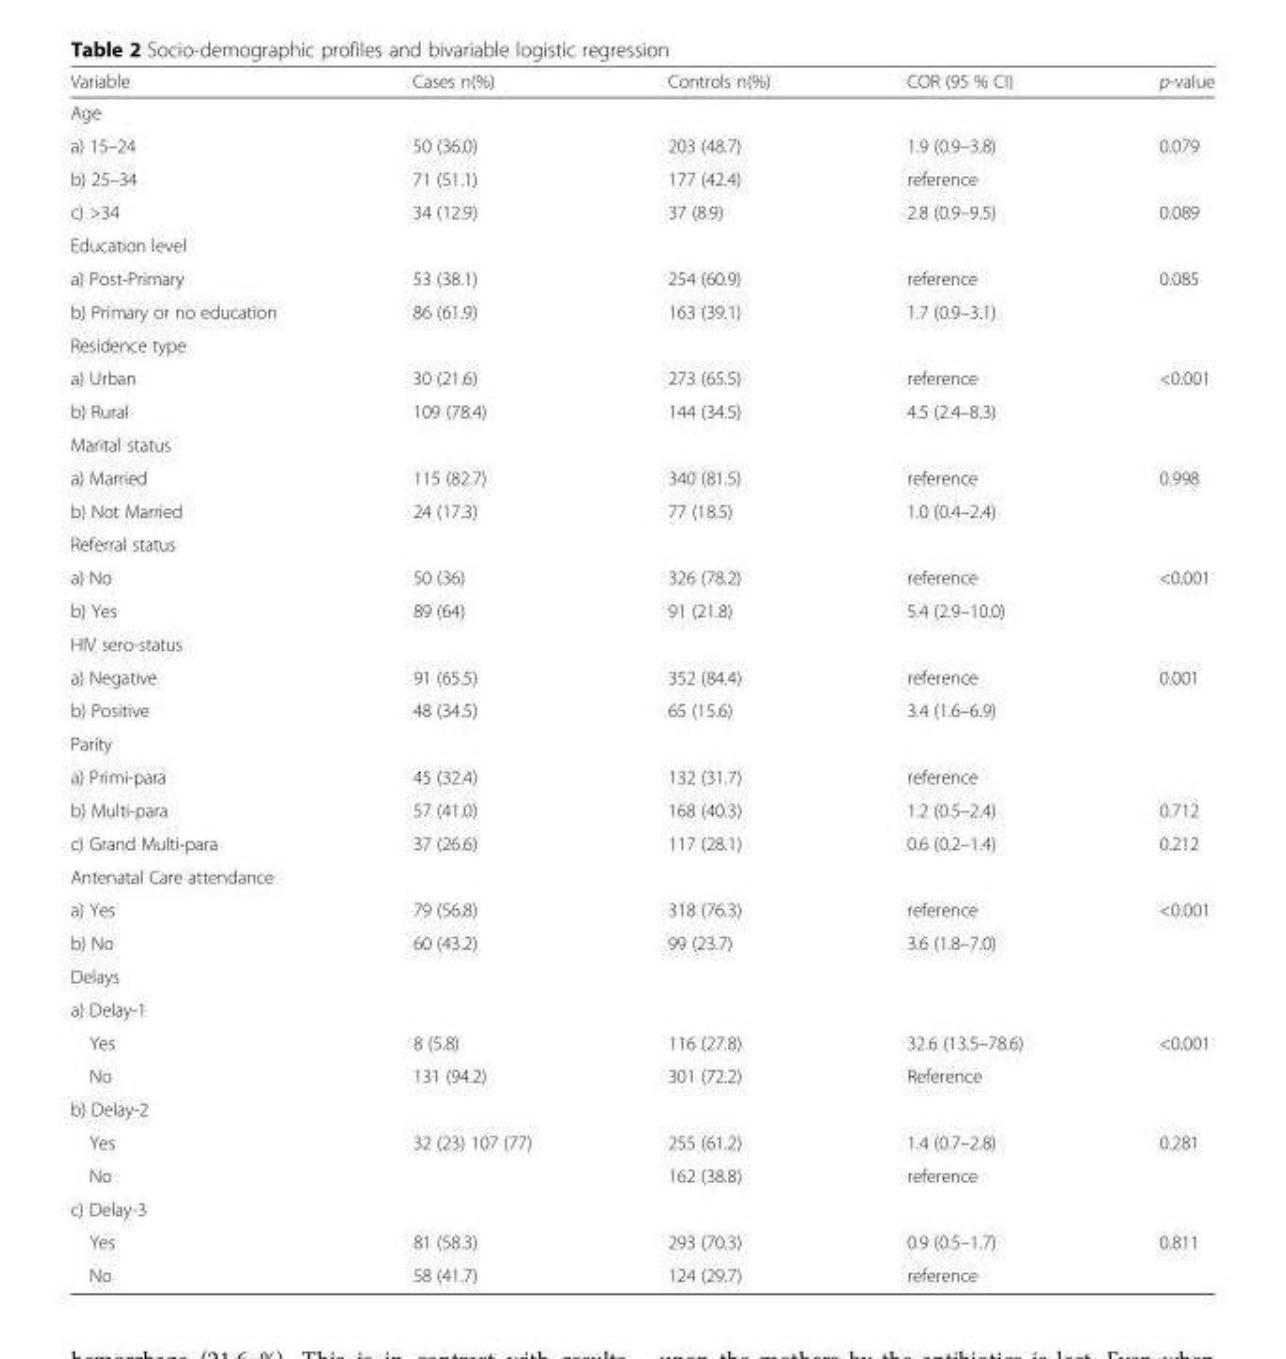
<table><thead><tr><td>Variable</td><td>Cases n(%)</td><td>Controls n(%)</td><td>COR (95 % CI)</td><td>p-value</td></tr></thead><tbody><tr><td colspan="5">Age</td></tr><tr><td>a) 15–24</td><td>50 (36.0)</td><td>203 (48.7)</td><td>1.9 (0.9–3.8)</td><td>0.079</td></tr><tr><td>b) 25–34</td><td>71 (51.1)</td><td>177 (42.4)</td><td>reference</td><td></td></tr><tr><td>c) &gt;34</td><td>34 (12.9)</td><td>37 (8.9)</td><td>2.8 (0.9–9.5)</td><td>0.089</td></tr><tr><td colspan="5">Education level</td></tr><tr><td>a) Post-Primary</td><td>53 (38.1)</td><td>254 (60.9)</td><td>reference</td><td rowspan="2">0.085</td></tr><tr><td>b) Primary or no education</td><td>86 (61.9)</td><td>163 (39.1)</td><td>1.7 (0.9–3.1)</td></tr><tr><td colspan="5">Residence type</td></tr><tr><td>a) Urban</td><td>30 (21.6)</td><td>273 (65.5)</td><td>reference</td><td rowspan="2">&lt;0.001</td></tr><tr><td>b) Rural</td><td>109 (78.4)</td><td>144 (34.5)</td><td>4.5 (2.4–8.3)</td></tr><tr><td colspan="5">Marital status</td></tr><tr><td>a) Married</td><td>115 (82.7)</td><td>340 (81.5)</td><td>reference</td><td rowspan="2">0.998</td></tr><tr><td>b) Not Married</td><td>24 (17.3)</td><td>77 (18.5)</td><td>1.0 (0.4–2.4)</td></tr><tr><td colspan="5">Referral status</td></tr><tr><td>a) No</td><td>50 (36)</td><td>326 (78.2)</td><td>reference</td><td rowspan="2">&lt;0.001</td></tr><tr><td>b) Yes</td><td>89 (64)</td><td>91 (21.8)</td><td>5.4 (2.9–10.0)</td></tr><tr><td colspan="5">HIV sero-status</td></tr><tr><td>a) Negative</td><td>91 (65.5)</td><td>352 (84.4)</td><td>reference</td><td rowspan="2">0.001</td></tr><tr><td>b) Positive</td><td>48 (34.5)</td><td>65 (15.6)</td><td>3.4 (1.6–6.9)</td></tr><tr><td colspan="5">Parity</td></tr><tr><td>a) Primi-para</td><td>45 (32.4)</td><td>132 (31.7)</td><td>reference</td><td></td></tr><tr><td>b) Multi-para</td><td>57 (41.0)</td><td>168 (40.3)</td><td>1.2 (0.5–2.4)</td><td>0.712</td></tr><tr><td>c) Grand Multi-para</td><td>37 (26.6)</td><td>117 (28.1)</td><td>0.6 (0.2–1.4)</td><td>0.212</td></tr><tr><td colspan="5">Antenatal Care attendance</td></tr><tr><td>a) Yes</td><td>79 (56.8)</td><td>318 (76.3)</td><td>reference</td><td rowspan="2">&lt;0.001</td></tr><tr><td>b) No</td><td>60 (43.2)</td><td>99 (23.7)</td><td>3.6 (1.8–7.0)</td></tr><tr><td colspan="5">Delays</td></tr><tr><td colspan="5">a) Delay-1</td></tr><tr><td>Yes</td><td>8 (5.8)</td><td>116 (27.8)</td><td>32.6 (13.5–78.6)</td><td rowspan="2">&lt;0.001</td></tr><tr><td>No</td><td>131 (94.2)</td><td>301 (72.2)</td><td>Reference</td></tr><tr><td colspan="5">b) Delay-2</td></tr><tr><td>Yes</td><td>32 (23) 107 (77)</td><td>255 (61.2)</td><td>1.4 (0.7–2.8)</td><td rowspan="2">0.281</td></tr><tr><td>No</td><td></td><td>162 (38.8)</td><td>reference</td></tr><tr><td colspan="5">c) Delay-3</td></tr><tr><td>Yes</td><td>81 (58.3)</td><td>293 (70.3)</td><td>0.9 (0.5–1.7)</td><td rowspan="2">0.811</td></tr><tr><td>No</td><td>58 (41.7)</td><td>124 (29.7)</td><td>reference</td></tr></tbody></table>